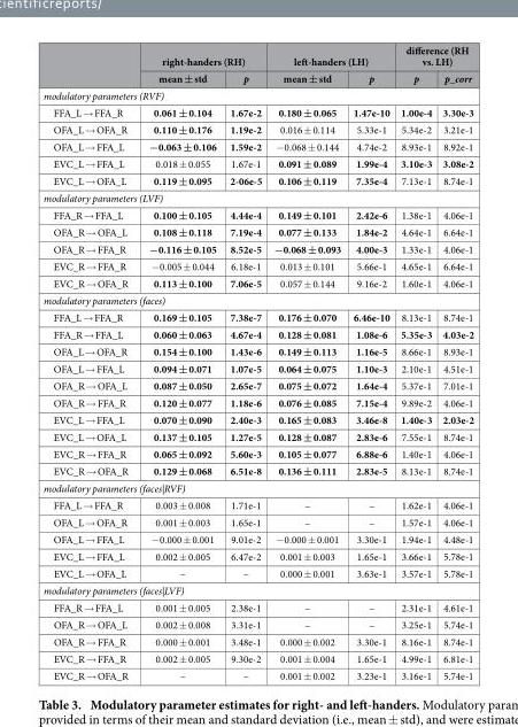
<table><thead><tr><td rowspan="2"></td><td colspan="2">right-handers (RH)</td><td colspan="2">left-handers (LH)</td><td colspan="2">difference (RH vs. LH)</td></tr><tr><td>mean ± std</td><td>p</td><td>mean ± std</td><td>p</td><td>p</td><td>p_corr</td></tr></thead><tbody><tr><td colspan="7">modulatory parameters (RVF)</td></tr><tr><td>FFA_L → FFA_R</td><td>0.061 ± 0.104</td><td>1.67e-2</td><td>0.180 ± 0.065</td><td>1.47e-10</td><td>1.00e-4</td><td>3.30e-3</td></tr><tr><td>OFA_L → OFA_R</td><td>0.110 ± 0.176</td><td>1.19e-2</td><td>0.016 ± 0.114</td><td>5.33e-1</td><td>5.34e-2</td><td>3.21e-1</td></tr><tr><td>OFA_L → FFA_L</td><td>−0.063 ± 0.106</td><td>1.59e-2</td><td>− 0.068 ± 0.144</td><td>4.74e-2</td><td>8.93e-1</td><td>8.92e-1</td></tr><tr><td>EVC_L → FFA_L</td><td>0.018 ± 0.055</td><td>1.67e-1</td><td>0.091 ± 0.089</td><td>1.99e-4</td><td>3.10e-3</td><td>3.08e-2</td></tr><tr><td>EVC_L → OFA_L</td><td>0.119 ± 0.095</td><td>2-06e-5</td><td>0.106 ± 0.119</td><td>7.35e-4</td><td>7.13e-1</td><td>8.74e-1</td></tr><tr><td colspan="7">modulatory parameters (LVF)</td></tr><tr><td>FFA_R → FFA_L</td><td>0.100 ± 0.105</td><td>4.44e-4</td><td>0.149 ± 0.101</td><td>2.42e-6</td><td>1.38e-1</td><td>4.06e-1</td></tr><tr><td>OFA_R → OFA_L</td><td>0.108 ± 0.118</td><td>7.19e-4</td><td>0.077 ± 0.133</td><td>1.84e-2</td><td>4.64e-1</td><td>6.64e-1</td></tr><tr><td>OFA_R → FFA_R</td><td>−0.116 ± 0.105</td><td>8.52e-5</td><td>−0.068 ± 0.093</td><td>4.00e-3</td><td>1.33e-1</td><td>4.06e-1</td></tr><tr><td>EVC_R → FFA_R</td><td>− 0.005 ± 0.044</td><td>6.18e-1</td><td>0.013 ± 0.101</td><td>5.66e-1</td><td>4.65e-1</td><td>6.64e-1</td></tr><tr><td>EVC_R → OFA_R</td><td>0.113 ± 0.100</td><td>7.06e-5</td><td>0.057 ± 0.144</td><td>9.16e-2</td><td>1.60e-1</td><td>4.06e-1</td></tr><tr><td colspan="7">modulatory parameters (faces)</td></tr><tr><td>FFA_L → FFA_R</td><td>0.169 ± 0.105</td><td>7.38e-7</td><td>0.176 ± 0.070</td><td>6.46e-10</td><td>8.13e-1</td><td>8.74e-1</td></tr><tr><td>FFA_R → FFA_L</td><td>0.060 ± 0.063</td><td>4.67e-4</td><td>0.128 ± 0.081</td><td>1.08e-6</td><td>5.35e-3</td><td>4.03e-2</td></tr><tr><td>OFA_L → OFA_R</td><td>0.154 ± 0.100</td><td>1.43e-6</td><td>0.149 ± 0.113</td><td>1.16e-5</td><td>8.66e-1</td><td>8.93e-1</td></tr><tr><td>OFA_L → FFA_L</td><td>0.094 ± 0.071</td><td>1.07e-5</td><td>0.064 ± 0.075</td><td>1.10e-3</td><td>2.10e-1</td><td>4.51e-1</td></tr><tr><td>OFA_R → OFA_L</td><td>0.087 ± 0.050</td><td>2.65e-7</td><td>0.075 ± 0.072</td><td>1.64e-4</td><td>5.37e-1</td><td>7.01e-1</td></tr><tr><td>OFA_R → FFA_R</td><td>0.120 ± 0.077</td><td>1.18e-6</td><td>0.076 ± 0.085</td><td>7.15e-4</td><td>9.89e-2</td><td>4.06e-1</td></tr><tr><td>EVC_L → FFA_L</td><td>0.070 ± 0.090</td><td>2.40e-3</td><td>0.165 ± 0.083</td><td>3.46e-8</td><td>1.40e-3</td><td>2.03e-2</td></tr><tr><td>EVC_L → OFA_L</td><td>0.137 ± 0.105</td><td>1.27e-5</td><td>0.128 ± 0.087</td><td>2.83e-6</td><td>7.55e-1</td><td>8.74e-1</td></tr><tr><td>EVC_R → FFA_R</td><td>0.065 ± 0.092</td><td>5.60e-3</td><td>0.105 ± 0.077</td><td>6.88e-6</td><td>1.40e-1</td><td>4.06e-1</td></tr><tr><td>EVC_R → OFA_R</td><td>0.129 ± 0.068</td><td>6.51e-8</td><td>0.136 ± 0.111</td><td>2.83e-5</td><td>8.13e-1</td><td>8.74e-1</td></tr><tr><td colspan="7">modulatory parameters (faces|RVF)</td></tr><tr><td>FFA_L → FFA_R</td><td>0.003 ± 0.008</td><td>1.71e-1</td><td>–</td><td>–</td><td>1.62e-1</td><td>4.06e-1</td></tr><tr><td>OFA_L → OFA_R</td><td>0.001 ± 0.003</td><td>1.65e-1</td><td>–</td><td>–</td><td>1.57e-1</td><td>4.06e-1</td></tr><tr><td>OFA_L → FFA_L</td><td>− 0.000 ± 0.001</td><td>9.01e-2</td><td>− 0.000 ± 0.001</td><td>3.30e-1</td><td>1.94e-1</td><td>4.48e-1</td></tr><tr><td>EVC_L → FFA_L</td><td>0.002 ± 0.005</td><td>6.47e-2</td><td>0.001 ± 0.003</td><td>1.65e-1</td><td>3.66e-1</td><td>5.78e-1</td></tr><tr><td>EVC_L → OFA_L</td><td>–</td><td>–</td><td>0.000 ± 0.001</td><td>3.63e-1</td><td>3.57e-1</td><td>5.78e-1</td></tr><tr><td colspan="7">modulatory parameters (faces|LVF)</td></tr><tr><td>FFA_R → FFA_L</td><td>0.001 ± 0.005</td><td>2.38e-1</td><td>–</td><td>–</td><td>2.31e-1</td><td>4.61e-1</td></tr><tr><td>OFA_R → OFA_L</td><td>0.002 ± 0.008</td><td>3.31e-1</td><td>–</td><td>–</td><td>3.25e-1</td><td>5.74e-1</td></tr><tr><td>OFA_R → FFA_R</td><td>0.000 ± 0.001</td><td>3.48e-1</td><td>0.000 ± 0.002</td><td>3.30e-1</td><td>8.16e-1</td><td>8.74e-1</td></tr><tr><td>EVC_R → FFA_R</td><td>0.002 ± 0.005</td><td>9.30e-2</td><td>0.001 ± 0.004</td><td>1.65e-1</td><td>4.99e-1</td><td>6.81e-1</td></tr><tr><td>EVC_R → OFA_R</td><td>–</td><td>–</td><td>0.001 ± 0.002</td><td>3.23e-1</td><td>3.16e-1</td><td>5.74e-1</td></tr></tbody></table>